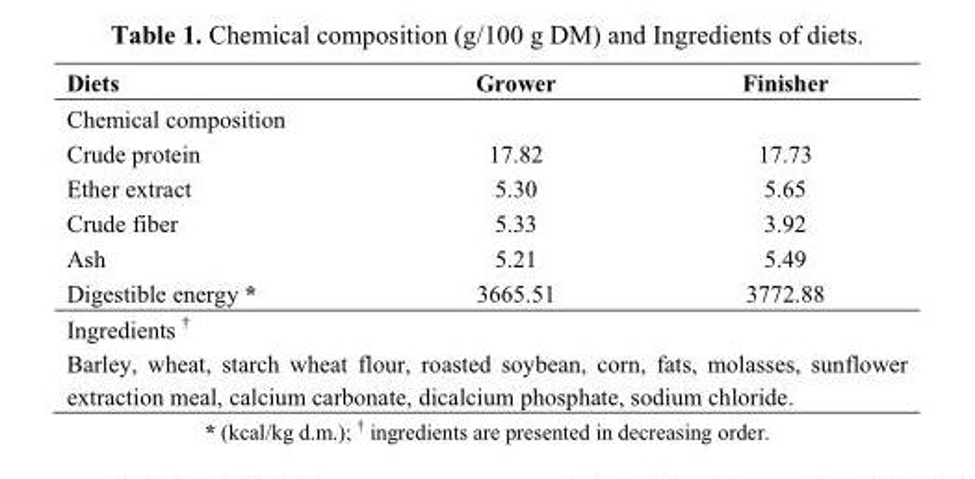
<table><thead><tr><td>Diets</td><td>Grower</td><td>Finisher</td></tr></thead><tbody><tr><td colspan="3">Chemical composition</td></tr><tr><td>Crude protein</td><td>17.82</td><td>17.73</td></tr><tr><td>Ether extract</td><td>5.30</td><td>5.65</td></tr><tr><td>Crude fiber</td><td>5.33</td><td>3.92</td></tr><tr><td>Ash</td><td>5.21</td><td>5.49</td></tr><tr><td>Digestible energy *</td><td>3665.51</td><td>3772.88</td></tr><tr><td colspan="3">Ingredients <sup>†</sup></td></tr><tr><td colspan="3">Barley, wheat, starch wheat flour, roasted soybean, corn, fats, molasses, sunflower extraction meal, calcium carbonate, dicalcium phosphate, sodium chloride.</td></tr></tbody></table>